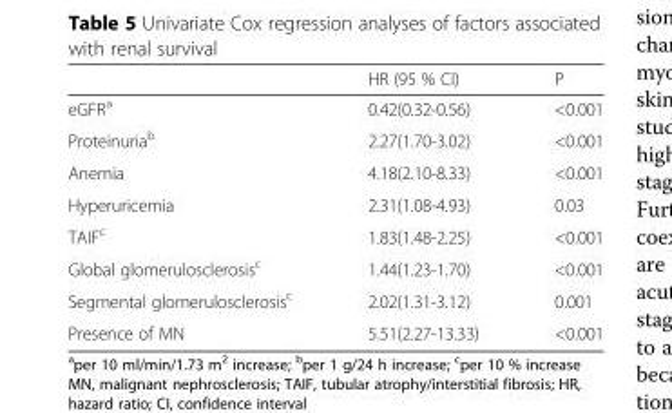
<table><thead><tr><td></td><td>HR (95 % CI)</td><td>P</td></tr></thead><tbody><tr><td>eGFR<sup>a</sup></td><td>0.42(0.32-0.56)</td><td>&lt;0.001</td></tr><tr><td>Proteinuria<sup>b</sup></td><td>2.27(1.70-3.02)</td><td>&lt;0.001</td></tr><tr><td>Anemia</td><td>4.18(2.10-8.33)</td><td>&lt;0.001</td></tr><tr><td>Hyperuricemia</td><td>2.31(1.08-4.93)</td><td>0.03</td></tr><tr><td>TAIF<sup>c</sup></td><td>1.83(1.48-2.25)</td><td>&lt;0.001</td></tr><tr><td>Global glomerulosclerosis<sup>c</sup></td><td>1.44(1.23-1.70)</td><td>&lt;0.001</td></tr><tr><td>Segmental glomerulosclerosis<sup>c</sup></td><td>2.02(1.31-3.12)</td><td>0.001</td></tr><tr><td>Presence of MN</td><td>5.51(2.27-13.33)</td><td>&lt;0.001</td></tr></tbody></table>